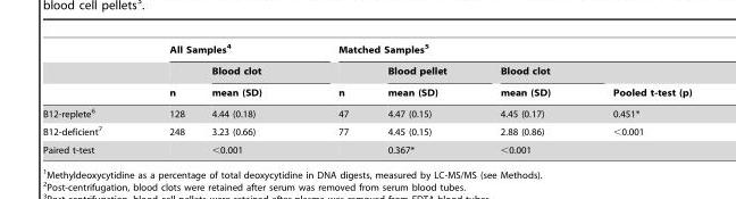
<table><thead><tr><td rowspan="3"></td><td colspan="2">All Samples<sup>4</sup></td><td colspan="4">Matched Samples<sup>5</sup></td></tr><tr><td rowspan="2">n</td><td rowspan="2">Blood clot mean (SD)</td><td rowspan="2">n</td><td rowspan="2">Blood pellet mean (SD)</td><td rowspan="2">Blood clot mean (SD)</td><td rowspan="2">Pooled t-test (p)</td></tr><tr></tr></thead><tbody><tr><td>B12-replete<sup>6</sup></td><td>128</td><td>4.44 (0.18)</td><td>47</td><td>4.47 (0.15)</td><td>4.45 (0.17)</td><td>0.451*</td></tr><tr><td>B12-deficient<sup>7</sup></td><td>248</td><td>3.23 (0.66)</td><td>77</td><td>4.45 (0.15)</td><td>2.88 (0.86)</td><td>&lt;0.001</td></tr><tr><td>Paired t-test</td><td></td><td>&lt;0.001</td><td></td><td>0.367*</td><td>&lt;0.001</td><td></td></tr></tbody></table>